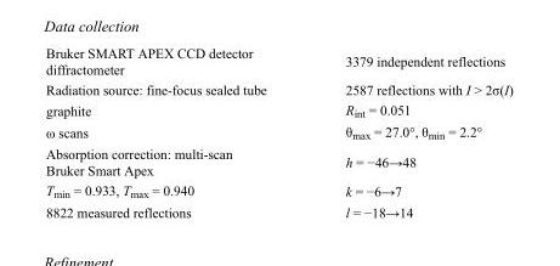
<table><tbody><tr><td>Bruker SMART APEX CCD detector diffractometer</td><td>3379 independent reflections</td></tr><tr><td>Radiation source: fine-focus sealed tube</td><td>2587 reflections with I &gt; 2σ(I)</td></tr><tr><td>graphite</td><td>R<sub>int</sub> = 0.051</td></tr><tr><td>ω scans</td><td>θ<sub>max</sub> = 27.0°, θ<sub>min</sub> = 2.2°</td></tr><tr><td>Absorption correction: multi-scan Bruker Smart Apex</td><td>h = −46→48</td></tr><tr><td>T<sub>min</sub> = 0.933, T<sub>max</sub> = 0.940</td><td>k = −6→7</td></tr><tr><td>8822 measured reflections</td><td>l = −18→14</td></tr></tbody></table>